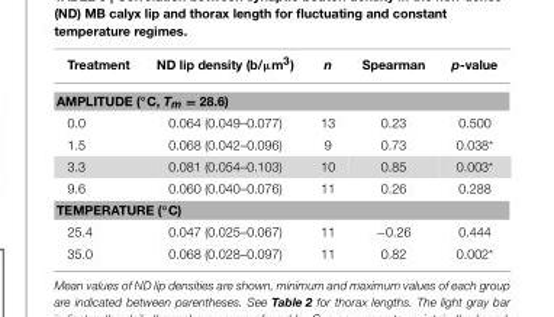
<table><thead><tr><td>Treatment</td><td>ND lip density (b/µm<sup>3</sup>)</td><td>n</td><td>Spearman</td><td>p-value</td></tr></thead><tbody><tr><td colspan="5">AMPLITUDE (◦C, Tm = 28.6)</td></tr><tr><td>0.0</td><td>0.064 (0.049–0.077)</td><td>13</td><td>0.23</td><td>0.500</td></tr><tr><td>1.5</td><td>0.068 (0.042–0.096)</td><td>9</td><td>0.73</td><td>0.038*</td></tr><tr><td>3.3</td><td>0.081 (0.054–0.103)</td><td>10</td><td>0.85</td><td>0.003*</td></tr><tr><td>9.6</td><td>0.060 (0.040–0.076)</td><td>11</td><td>0.26</td><td>0.288</td></tr><tr><td colspan="5">TEMPERATURE (◦C)</td></tr><tr><td>25.4</td><td>0.047 (0.025–0.067)</td><td>11</td><td>−0.26</td><td>0.444</td></tr><tr><td>35.0</td><td>0.068 (0.028–0.097)</td><td>11</td><td>0.82</td><td>0.002*</td></tr></tbody></table>